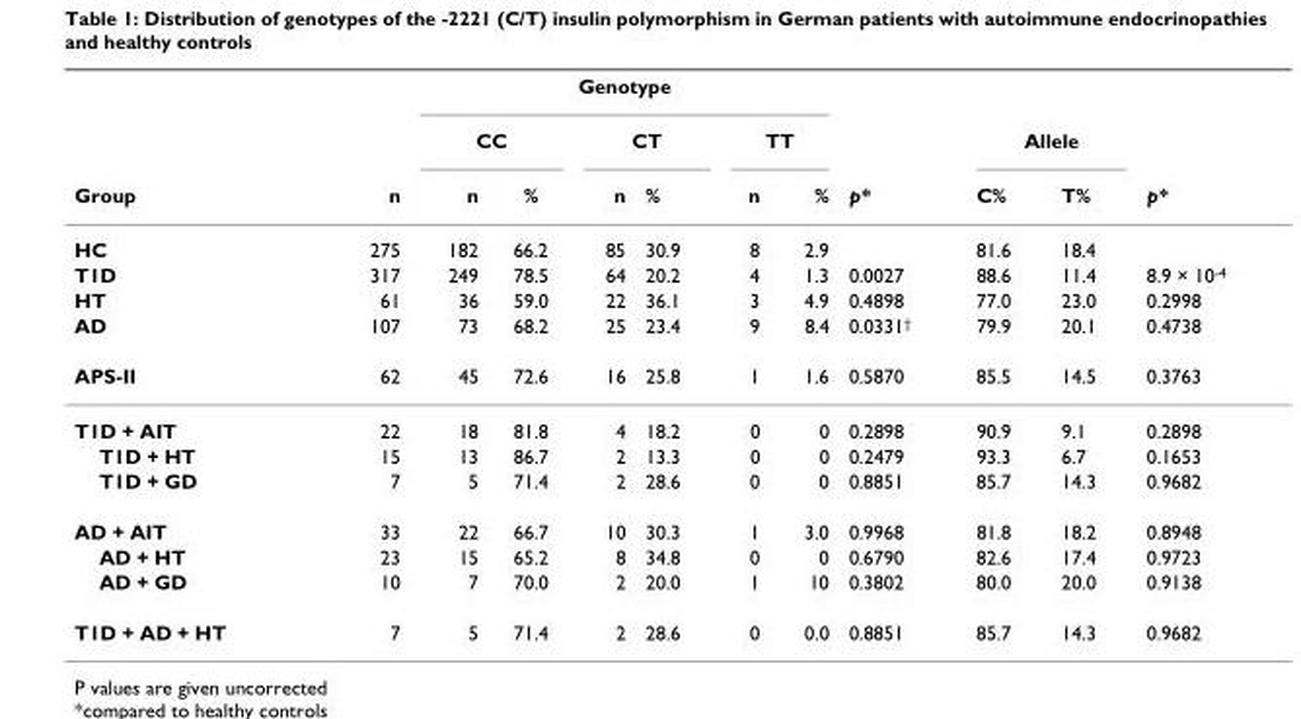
<table><thead><tr><td rowspan="3">Group</td><td rowspan="3">n</td><td colspan="6">Genotype</td><td rowspan="3">p*</td><td></td><td></td><td rowspan="3">p*</td></tr><tr><td colspan="2">CC</td><td colspan="2">CT</td><td colspan="2">TT</td><td colspan="2">Allele</td></tr><tr><td>n</td><td>%</td><td>n</td><td>%</td><td>n</td><td>%</td><td>C%</td><td>T%</td></tr></thead><tbody><tr><td>HC</td><td>275</td><td>182</td><td>66.2</td><td>85</td><td>30.9</td><td>8</td><td>2.9</td><td></td><td>81.6</td><td>18.4</td><td></td></tr><tr><td>T1D</td><td>317</td><td>249</td><td>78.5</td><td>64</td><td>20.2</td><td>4</td><td>1.3</td><td>0.0027</td><td>88.6</td><td>11.4</td><td>8.9 × 10<sup>-4</sup></td></tr><tr><td>HT</td><td>61</td><td>36</td><td>59.0</td><td>22</td><td>36.1</td><td>3</td><td>4.9</td><td>0.4898</td><td>77.0</td><td>23.0</td><td>0.2998</td></tr><tr><td>AD</td><td>107</td><td>73</td><td>68.2</td><td>25</td><td>23.4</td><td>9</td><td>8.4</td><td>0.0331<sup>†</sup></td><td>79.9</td><td>20.1</td><td>0.4738</td></tr><tr><td>APS-II</td><td>62</td><td>45</td><td>72.6</td><td>16</td><td>25.8</td><td>1</td><td>1.6</td><td>0.5870</td><td>85.5</td><td>14.5</td><td>0.3763</td></tr><tr><td>T1D + AIT</td><td>22</td><td>18</td><td>81.8</td><td>4</td><td>18.2</td><td>0</td><td>0</td><td>0.2898</td><td>90.9</td><td>9.1</td><td>0.2898</td></tr><tr><td>T1D + HT</td><td>15</td><td>13</td><td>86.7</td><td>2</td><td>13.3</td><td>0</td><td>0</td><td>0.2479</td><td>93.3</td><td>6.7</td><td>0.1653</td></tr><tr><td>T1D + GD</td><td>7</td><td>5</td><td>71.4</td><td>2</td><td>28.6</td><td>0</td><td>0</td><td>0.8851</td><td>85.7</td><td>14.3</td><td>0.9682</td></tr><tr><td>AD + AIT</td><td>33</td><td>22</td><td>66.7</td><td>10</td><td>30.3</td><td>1</td><td>3.0</td><td>0.9968</td><td>81.8</td><td>18.2</td><td>0.8948</td></tr><tr><td>AD + HT</td><td>23</td><td>15</td><td>65.2</td><td>8</td><td>34.8</td><td>0</td><td>0</td><td>0.6790</td><td>82.6</td><td>17.4</td><td>0.9723</td></tr><tr><td>AD + GD</td><td>10</td><td>7</td><td>70.0</td><td>2</td><td>20.0</td><td>1</td><td>10</td><td>0.3802</td><td>80.0</td><td>20.0</td><td>0.9138</td></tr><tr><td>T1D + AD + HT</td><td>7</td><td>5</td><td>71.4</td><td>2</td><td>28.6</td><td>0</td><td>0.0</td><td>0.8851</td><td>85.7</td><td>14.3</td><td>0.9682</td></tr></tbody></table>